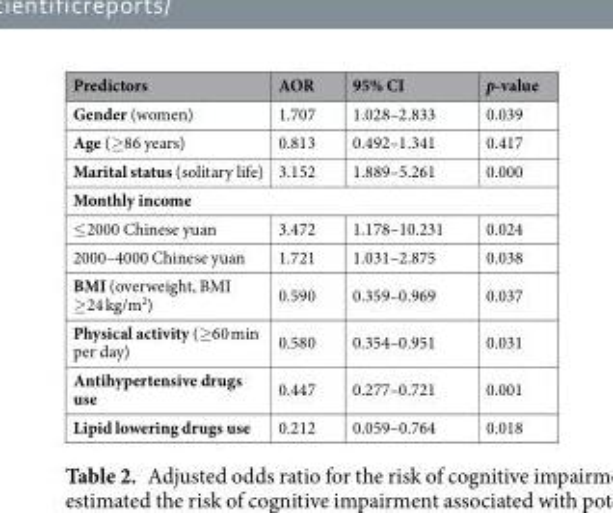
<table><thead><tr><td>Predictors</td><td>AOR</td><td>95% CI</td><td>p-value</td></tr></thead><tbody><tr><td>Gender (women)</td><td>1.707</td><td>1.028–2.833</td><td>0.039</td></tr><tr><td>Age (≥86 years)</td><td>0.813</td><td>0.492–1.341</td><td>0.417</td></tr><tr><td>Marital status (solitary life)</td><td>3.152</td><td>1.889–5.261</td><td>0.000</td></tr><tr><td colspan="4">Monthly income</td></tr><tr><td>≤2000 Chinese yuan</td><td>3.472</td><td>1.178–10.231</td><td>0.024</td></tr><tr><td>2000–4000 Chinese yuan</td><td>1.721</td><td>1.031–2.875</td><td>0.038</td></tr><tr><td>BMI (overweight, BMI ≥24 kg/m<sup>2</sup>)</td><td>0.590</td><td>0.359–0.969</td><td>0.037</td></tr><tr><td>Physical activity (≥60 min per day)</td><td>0.580</td><td>0.354–0.951</td><td>0.031</td></tr><tr><td>Antihypertensive drugs use</td><td>0.447</td><td>0.277–0.721</td><td>0.001</td></tr><tr><td>Lipid lowering drugs use</td><td>0.212</td><td>0.059–0.764</td><td>0.018</td></tr></tbody></table>